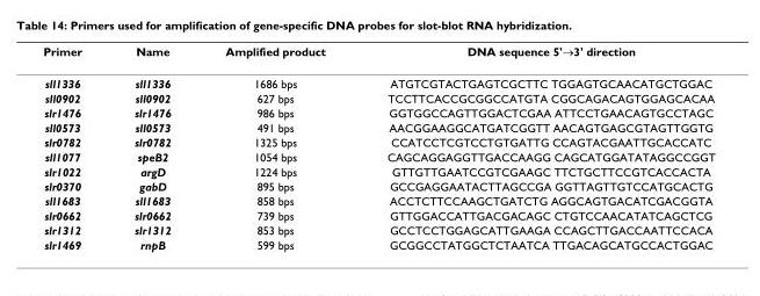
<table><thead><tr><td>Primer</td><td>Name</td><td>Amplified product</td><td>DNA sequence 5&#x27;→3&#x27; direction</td></tr></thead><tbody><tr><td>sll1336</td><td>sll1336</td><td>1686 bps</td><td>ATGTCGTACTGAGTCGCTTC TGGAGTGCAACATGCTGGAC</td></tr><tr><td>sll0902</td><td>sll0902</td><td>627 bps</td><td>TCCTTCACCGCGGCCATGTA CGGCAGACAGTGGAGCACAA</td></tr><tr><td>slr1476</td><td>slr1476</td><td>986 bps</td><td>GGTGGCCAGTTGGACTCGAA ATTCCTGAACAGTGCCTAGC</td></tr><tr><td>sll0573</td><td>sll0573</td><td>491 bps</td><td>AACGGAAGGCATGATCGGTT AACAGTGAGCGTAGTTGGTG</td></tr><tr><td>slr0782</td><td>slr0782</td><td>1325 bps</td><td>CCATCCTCGTCCTGTGATTG CCAGTACGAATTGCACCATC</td></tr><tr><td>sll1077</td><td>speB2</td><td>1054 bps</td><td>CAGCAGGAGGTTGACCAAGG CAGCATGGATATAGGCCGGT</td></tr><tr><td>slr1022</td><td>argD</td><td>1224 bps</td><td>GTTGTTGAATCCGTCGAAGC TTCTGCTTCCGTCACCACTA</td></tr><tr><td>slr0370</td><td>gabD</td><td>895 bps</td><td>GCCGAGGAATACTTAGCCGA GGTTAGTTGTCCATGCACTG</td></tr><tr><td>sll1683</td><td>sll1683</td><td>858 bps</td><td>ACCTCTTCCAAGCTGATCTG AGGCAGTGACATCGACGGTA</td></tr><tr><td>slr0662</td><td>slr0662</td><td>739 bps</td><td>GTTGGACCATTGACGACAGC CTGTCCAACATATCAGCTCG</td></tr><tr><td>slr1312</td><td>slr1312</td><td>853 bps</td><td>GCCTCCTGGAGCATTGAAGA CCAGCTTGACCAATTCCACA</td></tr><tr><td>slr1469</td><td>rnpB</td><td>599 bps</td><td>GCGGCCTATGGCTCTAATCA TTGACAGCATGCCACTGGAC</td></tr></tbody></table>